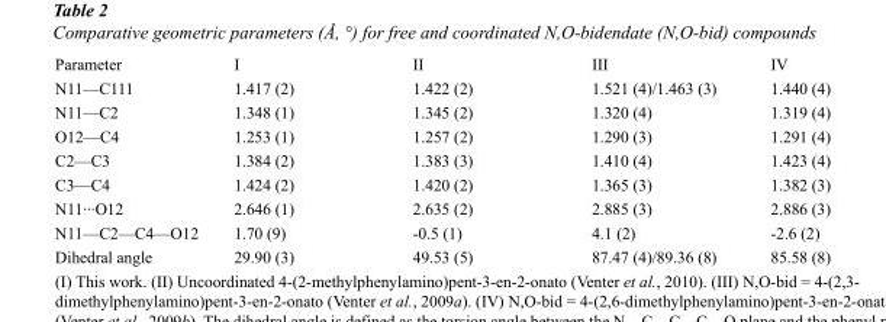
<table><thead><tr><td>Parameter</td><td>I</td><td>II</td><td>III</td><td>IV</td></tr></thead><tbody><tr><td>N11—C111</td><td>1.417 (2)</td><td>1.422 (2)</td><td>1.521 (4)/1.463 (3)</td><td>1.440 (4)</td></tr><tr><td>N11—C2</td><td>1.348 (1)</td><td>1.345 (2)</td><td>1.320 (4)</td><td>1.319 (4)</td></tr><tr><td>O12—C4</td><td>1.253 (1)</td><td>1.257 (2)</td><td>1.290 (3)</td><td>1.291 (4)</td></tr><tr><td>C2—C3</td><td>1.384 (2)</td><td>1.383 (3)</td><td>1.410 (4)</td><td>1.423 (4)</td></tr><tr><td>C3—C4</td><td>1.424 (2)</td><td>1.420 (2)</td><td>1.365 (3)</td><td>1.382 (3)</td></tr><tr><td>N11···O12</td><td>2.646 (1)</td><td>2.635 (2)</td><td>2.885 (3)</td><td>2.886 (3)</td></tr><tr><td>N11—C2—C4—O12</td><td>1.70 (9)</td><td>-0.5 (1)</td><td>4.1 (2)</td><td>-2.6 (2)</td></tr><tr><td>Dihedral angle</td><td>29.90 (3)</td><td>49.53 (5)</td><td>87.47 (4)/89.36 (8)</td><td>85.58 (8)</td></tr></tbody></table>